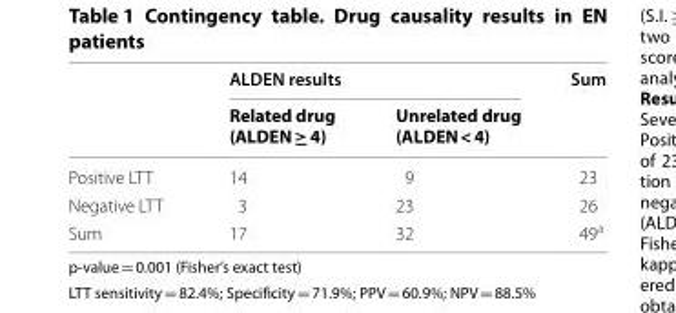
<table><thead><tr><td rowspan="2"></td><td colspan="2">ALDEN results</td><td rowspan="2">Sum</td></tr><tr><td>Related drug (ALDEN ≥ 4)</td><td>Unrelated drug (ALDEN &lt; 4)</td></tr></thead><tbody><tr><td>Positive LTT</td><td>14</td><td>9</td><td>23</td></tr><tr><td>Negative LTT</td><td>3</td><td>23</td><td>26</td></tr><tr><td>Sum</td><td>17</td><td>32</td><td>49<sup>a</sup></td></tr></tbody></table>